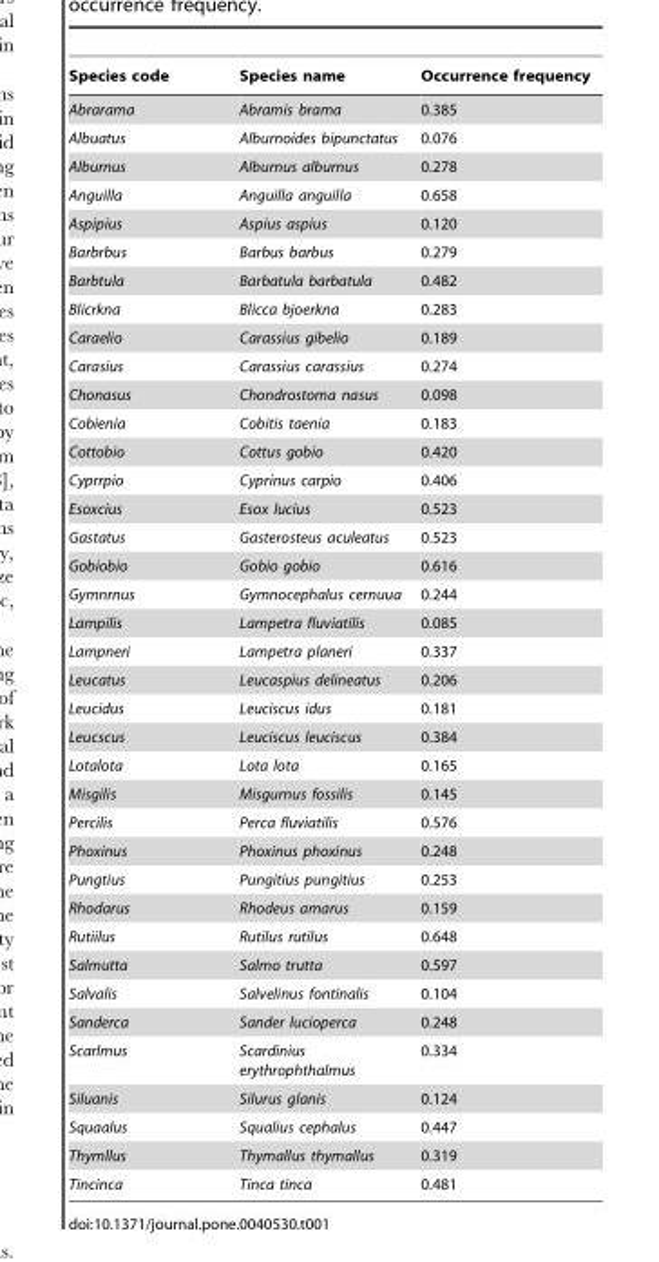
<table><thead><tr><td>Species code</td><td>Species name</td><td>Occurrence frequency</td></tr></thead><tbody><tr><td>Abrarama</td><td>Abramis brama</td><td>0.385</td></tr><tr><td>Albuatus</td><td>Alburnoides bipunctatus</td><td>0.076</td></tr><tr><td>Alburnus</td><td>Alburnus alburnus</td><td>0.278</td></tr><tr><td>Anguilla</td><td>Anguilla anguilla</td><td>0.658</td></tr><tr><td>Aspipius</td><td>Aspius aspius</td><td>0.120</td></tr><tr><td>Barbrbus</td><td>Barbus barbus</td><td>0.279</td></tr><tr><td>Barbtula</td><td>Barbatula barbatula</td><td>0.482</td></tr><tr><td>Blicrkna</td><td>Blicca bjoerkna</td><td>0.283</td></tr><tr><td>Caraelio</td><td>Carassius gibelio</td><td>0.189</td></tr><tr><td>Carasius</td><td>Carassius carassius</td><td>0.274</td></tr><tr><td>Chonasus</td><td>Chondrostoma nasus</td><td>0.098</td></tr><tr><td>Cobienia</td><td>Cobitis taenia</td><td>0.183</td></tr><tr><td>Cottobio</td><td>Cottus gobio</td><td>0.420</td></tr><tr><td>Cyprrpio</td><td>Cyprinus carpio</td><td>0.406</td></tr><tr><td>Esoxcius</td><td>Esox lucius</td><td>0.523</td></tr><tr><td>Gastatus</td><td>Gasterosteus aculeatus</td><td>0.523</td></tr><tr><td>Gobiobio</td><td>Gobio gobio</td><td>0.616</td></tr><tr><td>Gymnrnus</td><td>Gymnocephalus cernuua</td><td>0.244</td></tr><tr><td>Lampilis</td><td>Lampetra fluviatilis</td><td>0.085</td></tr><tr><td>Lampneri</td><td>Lampetra planeri</td><td>0.337</td></tr><tr><td>Leucatus</td><td>Leucaspius delineatus</td><td>0.206</td></tr><tr><td>Leucidus</td><td>Leuciscus idus</td><td>0.181</td></tr><tr><td>Leucscus</td><td>Leuciscus leuciscus</td><td>0.384</td></tr><tr><td>Lotalota</td><td>Lota lota</td><td>0.165</td></tr><tr><td>Misgilis</td><td>Misgurnus fossilis</td><td>0.145</td></tr><tr><td>Percilis</td><td>Perca fluviatilis</td><td>0.576</td></tr><tr><td>Phoxinus</td><td>Phoxinus phoxinus</td><td>0.248</td></tr><tr><td>Pungtius</td><td>Pungitius pungitius</td><td>0.253</td></tr><tr><td>Rhodarus</td><td>Rhodeus amarus</td><td>0.159</td></tr><tr><td>Rutiilus</td><td>Rutilus rutilus</td><td>0.648</td></tr><tr><td>Salmutta</td><td>Salmo trutta</td><td>0.597</td></tr><tr><td>Salvalis</td><td>Salvelinus fontinalis</td><td>0.104</td></tr><tr><td>Sanderca</td><td>Sander lucioperca</td><td>0.248</td></tr><tr><td>Scarlmus</td><td>Scardinius erythrophthalmus</td><td>0.334</td></tr><tr><td>Siluanis</td><td>Silurus glanis</td><td>0.124</td></tr><tr><td>Squaalus</td><td>Squalius cephalus</td><td>0.447</td></tr><tr><td>Thymllus</td><td>Thymallus thymallus</td><td>0.319</td></tr><tr><td>Tincinca</td><td>Tinca tinca</td><td>0.481</td></tr></tbody></table>